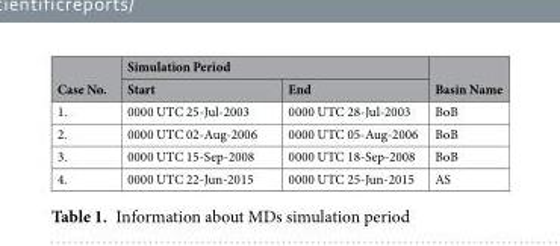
<table><thead><tr><td rowspan="2">Case No.</td><td colspan="2">Simulation Period</td><td rowspan="2">Basin Name</td></tr><tr><td>Start</td><td>End</td></tr></thead><tbody><tr><td>1.</td><td>0000 UTC 25-Jul-2003</td><td>0000 UTC 28-Jul-2003</td><td>BoB</td></tr><tr><td>2.</td><td>0000 UTC 02-Aug-2006</td><td>0000 UTC 05-Aug-2006</td><td>BoB</td></tr><tr><td>3.</td><td>0000 UTC 15-Sep-2008</td><td>0000 UTC 18-Sep-2008</td><td>BoB</td></tr><tr><td>4.</td><td>0000 UTC 22-Jun-2015</td><td>0000 UTC 25-Jun-2015</td><td>AS</td></tr></tbody></table>